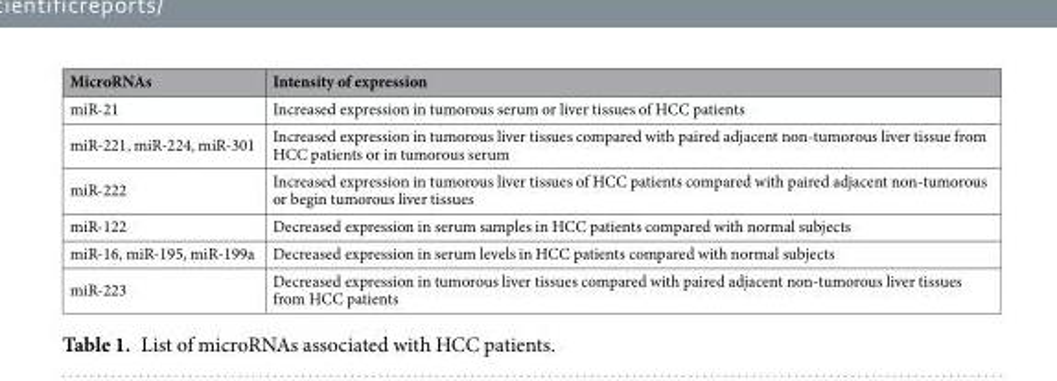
<table><thead><tr><td>MicroRNAs</td><td>Intensity of expression</td></tr></thead><tbody><tr><td>miR-21</td><td>Increased expression in tumorous serum or liver tissues of HCC patients</td></tr><tr><td>miR-221, miR-224, miR-301</td><td>Increased expression in tumorous liver tissues compared with paired adjacent non-tumorous liver tissue from HCC patients or in tumorous serum</td></tr><tr><td>miR-222</td><td>Increased expression in tumorous liver tissues of HCC patients compared with paired adjacent non-tumorous or begin tumorous liver tissues</td></tr><tr><td>miR-122</td><td>Decreased expression in serum samples in HCC patients compared with normal subjects</td></tr><tr><td>miR-16, miR-195, miR-199a</td><td>Decreased expression in serum levels in HCC patients compared with normal subjects</td></tr><tr><td>miR-223</td><td>Decreased expression in tumorous liver tissues compared with paired adjacent non-tumorous liver tissues from HCC patients</td></tr></tbody></table>